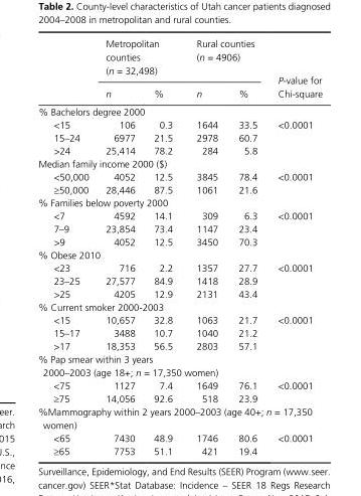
<table><thead><tr><td rowspan="2"></td><td colspan="2">Metropolitan counties (n = 32,498)</td><td colspan="2">Rural counties (n = 4906)</td><td rowspan="2">P- value for Chi- square</td></tr><tr><td>n</td><td>%</td><td>n</td><td>%</td></tr></thead><tbody><tr><td colspan="6">% Bachelors degree 2000</td></tr><tr><td>&lt;15</td><td>106</td><td>0.3</td><td>1644</td><td>33.5</td><td rowspan="3">&lt;0.0001</td></tr><tr><td>15–24</td><td>6977</td><td>21.5</td><td>2978</td><td>60.7</td></tr><tr><td>&gt;24</td><td>25,414</td><td>78.2</td><td>284</td><td>5.8</td></tr><tr><td colspan="6">Median family income 2000 ($)</td></tr><tr><td>&lt;50,000</td><td>4052</td><td>12.5</td><td>3845</td><td>78.4</td><td rowspan="2">&lt;0.0001</td></tr><tr><td>≥50,000</td><td>28,446</td><td>87.5</td><td>1061</td><td>21.6</td></tr><tr><td colspan="6">% Families below poverty 2000</td></tr><tr><td>&lt;7</td><td>4592</td><td>14.1</td><td>309</td><td>6.3</td><td rowspan="3">&lt;0.0001</td></tr><tr><td>7–9</td><td>23,854</td><td>73.4</td><td>1147</td><td>23.4</td></tr><tr><td>&gt;9</td><td>4052</td><td>12.5</td><td>3450</td><td>70.3</td></tr><tr><td colspan="6">% Obese 2010</td></tr><tr><td>&lt;23</td><td>716</td><td>2.2</td><td>1357</td><td>27.7</td><td rowspan="3">&lt;0.0001</td></tr><tr><td>23–25</td><td>27,577</td><td>84.9</td><td>1418</td><td>28.9</td></tr><tr><td>&gt;25</td><td>4205</td><td>12.9</td><td>2131</td><td>43.4</td></tr><tr><td colspan="6">% Current smoker 2000- 2003</td></tr><tr><td>&lt;15</td><td>10,657</td><td>32.8</td><td>1063</td><td>21.7</td><td rowspan="3">&lt;0.0001</td></tr><tr><td>15–17</td><td>3488</td><td>10.7</td><td>1040</td><td>21.2</td></tr><tr><td>&gt;17</td><td>18,353</td><td>56.5</td><td>2803</td><td>57.1</td></tr><tr><td colspan="6">% Pap smear within 3 years 2000–2003 (age 18+; n = 17,350 women)</td></tr><tr><td>&lt;75</td><td>1127</td><td>7.4</td><td>1649</td><td>76.1</td><td rowspan="2">&lt;0.0001</td></tr><tr><td>≥75</td><td>14,056</td><td>92.6</td><td>518</td><td>23.9</td></tr><tr><td colspan="6">%Mammography within 2 years 2000–2003 (age 40+; n = 17,350 women)</td></tr><tr><td>&lt;65</td><td>7430</td><td>48.9</td><td>1746</td><td>80.6</td><td rowspan="2">&lt;0.0001</td></tr><tr><td>≥65</td><td>7753</td><td>51.1</td><td>421</td><td>19.4</td></tr></tbody></table>